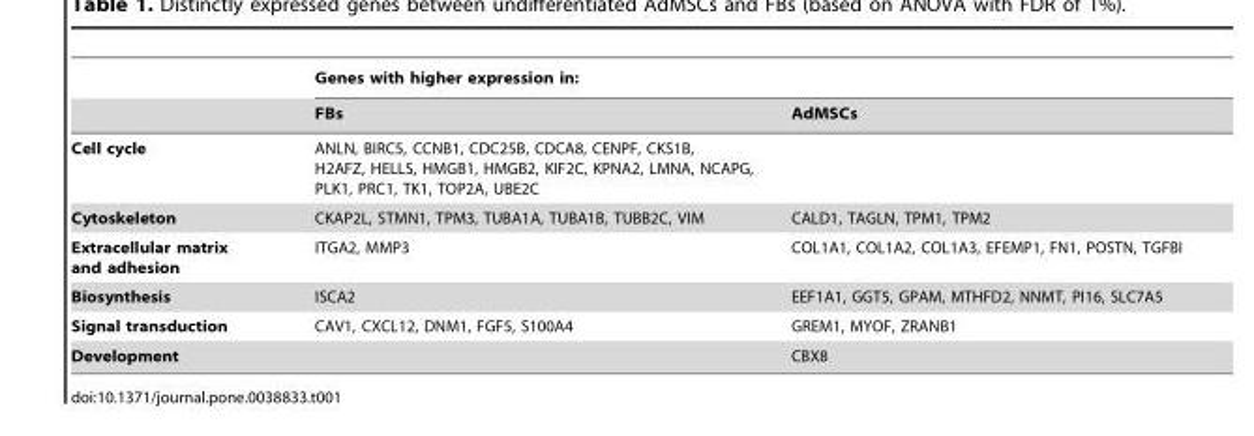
<table><thead><tr><td rowspan="2"></td><td colspan="2">Genes with higher expression in:</td></tr><tr><td>FBs</td><td>AdMSCs</td></tr></thead><tbody><tr><td>Cell cycle</td><td>ANLN, BIRC5, CCNB1, CDC25B, CDCA8, CENPF, CKS1B, H2AFZ, HELLS, HMGB1, HMGB2, KIF2C, KPNA2, LMNA, NCAPG, PLK1, PRC1, TK1, TOP2A, UBE2C</td><td></td></tr><tr><td>Cytoskeleton</td><td>CKAP2L, STMN1, TPM3, TUBA1A, TUBA1B, TUBB2C, VIM</td><td>CALD1, TAGLN, TPM1, TPM2</td></tr><tr><td>Extracellular matrix and adhesion</td><td>ITGA2, MMP3</td><td>COL1A1, COL1A2, COL1A3, EFEMP1, FN1, POSTN, TGFBI</td></tr><tr><td>Biosynthesis</td><td>ISCA2</td><td>EEF1A1, GGT5, GPAM, MTHFD2, NNMT, PI16, SLC7A5</td></tr><tr><td>Signal transduction</td><td>CAV1, CXCL12, DNM1, FGF5, S100A4</td><td>GREM1, MYOF, ZRANB1</td></tr><tr><td>Development</td><td></td><td>CBX8</td></tr></tbody></table>